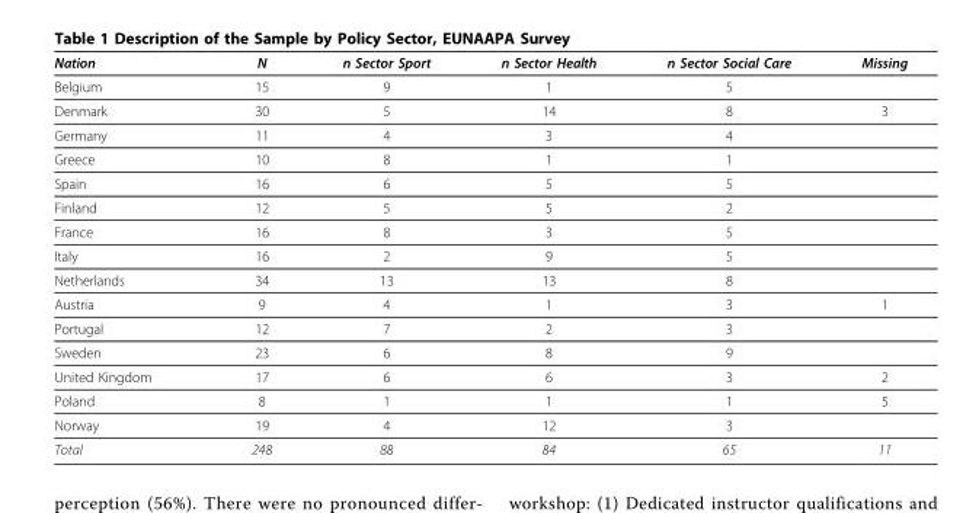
<table><thead><tr><td>Nation</td><td>N</td><td>n Sector Sport</td><td>n Sector Health</td><td>n Sector Social Care</td><td>Missing</td></tr></thead><tbody><tr><td>Belgium</td><td>15</td><td>9</td><td>1</td><td>5</td><td></td></tr><tr><td>Denmark</td><td>30</td><td>5</td><td>14</td><td>8</td><td>3</td></tr><tr><td>Germany</td><td>11</td><td>4</td><td>3</td><td>4</td><td></td></tr><tr><td>Greece</td><td>10</td><td>8</td><td>1</td><td>1</td><td></td></tr><tr><td>Spain</td><td>16</td><td>6</td><td>5</td><td>5</td><td></td></tr><tr><td>Finland</td><td>12</td><td>5</td><td>5</td><td>2</td><td></td></tr><tr><td>France</td><td>16</td><td>8</td><td>3</td><td>5</td><td></td></tr><tr><td>Italy</td><td>16</td><td>2</td><td>9</td><td>5</td><td></td></tr><tr><td>Netherlands</td><td>34</td><td>13</td><td>13</td><td>8</td><td></td></tr><tr><td>Austria</td><td>9</td><td>4</td><td>1</td><td>3</td><td>1</td></tr><tr><td>Portugal</td><td>12</td><td>7</td><td>2</td><td>3</td><td></td></tr><tr><td>Sweden</td><td>23</td><td>6</td><td>8</td><td>9</td><td></td></tr><tr><td>United Kingdom</td><td>17</td><td>6</td><td>6</td><td>3</td><td>2</td></tr><tr><td>Poland</td><td>8</td><td>1</td><td>1</td><td>1</td><td>5</td></tr><tr><td>Norway</td><td>19</td><td>4</td><td>12</td><td>3</td><td></td></tr><tr><td>Total</td><td>248</td><td>88</td><td>84</td><td>65</td><td>11</td></tr></tbody></table>